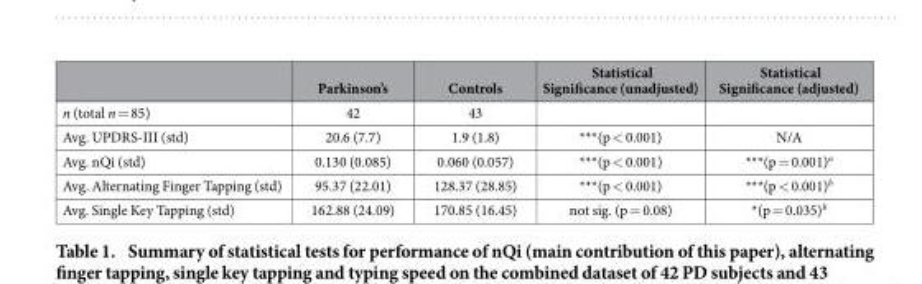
<table><thead><tr><td></td><td>Parkinson’s</td><td>Controls</td><td>Statistical Significance (unadjusted)</td><td>Statistical Significance (adjusted)</td></tr></thead><tbody><tr><td>n (total n = 85)</td><td>42</td><td>43</td><td></td><td></td></tr><tr><td>Avg. UPDRS-III (std)</td><td>20.6 (7.7)</td><td>1.9 (1.8)</td><td>***(p &lt; 0.001)</td><td>N/A</td></tr><tr><td>Avg. nQi (std)</td><td>0.130 (0.085)</td><td>0.060 (0.057)</td><td>***(p &lt; 0.001)</td><td>***(p = 0.001)<sup>a</sup></td></tr><tr><td>Avg. Alternating Finger Tapping (std)</td><td>95.37 (22.01)</td><td>128.37 (28.85)</td><td>***(p &lt; 0.001)</td><td>***(p &lt; 0.001)<sup>b</sup></td></tr><tr><td>Avg. Single Key Tapping (std)</td><td>162.88 (24.09)</td><td>170.85 (16.45)</td><td>not sig. (p = 0.08)</td><td>*(p = 0.035)<sup>b</sup></td></tr></tbody></table>